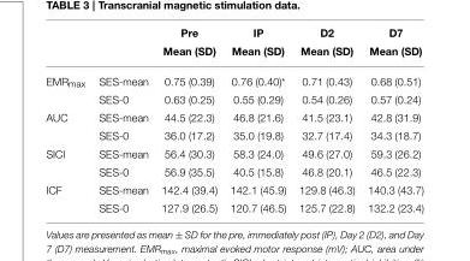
<table><thead><tr><td></td><td></td><td>Mean (SD)</td><td>Mean (SD)</td><td>Mean (SD)</td><td>Mean (SD)</td></tr></thead><tbody><tr><td rowspan="2">EMR<sub>max</sub></td><td>SES-mean</td><td>0.75 (0.39)</td><td>0.76 (0.40)*</td><td>0.71 (0.43)</td><td>0.68 (0.51)</td></tr><tr><td>SES-0</td><td>0.63 (0.25)</td><td>0.55 (0.29)</td><td>0.54 (0.26)</td><td>0.57 (0.24)</td></tr><tr><td rowspan="2">AUC</td><td>SES-mean</td><td>44.5 (22.3)</td><td>46.8 (21.6)</td><td>41.5 (23.1)</td><td>42.8 (31.9)</td></tr><tr><td>SES-0</td><td>36.0 (17.2)</td><td>35.0 (19.8)</td><td>32.7 (17.4)</td><td>34.3 (18.7)</td></tr><tr><td rowspan="2">SICI</td><td>SES-mean</td><td>56.4 (30.3)</td><td>58.3 (24.0)</td><td>49.6 (27.0)</td><td>59.3 (26.2)</td></tr><tr><td>SES-0</td><td>56.9 (35.5)</td><td>40.5 (15.8)</td><td>46.8 (20.1)</td><td>46.5 (22.3)</td></tr><tr><td rowspan="2">ICF</td><td>SES-mean</td><td>142.4 (39.4)</td><td>142.1 (45.9)</td><td>129.8 (46.3)</td><td>140.3 (43.7)</td></tr><tr><td>SES-0</td><td>127.9 (26.5)</td><td>120.7 (46.5)</td><td>125.7 (22.8)</td><td>132.2 (23.4)</td></tr></tbody></table>